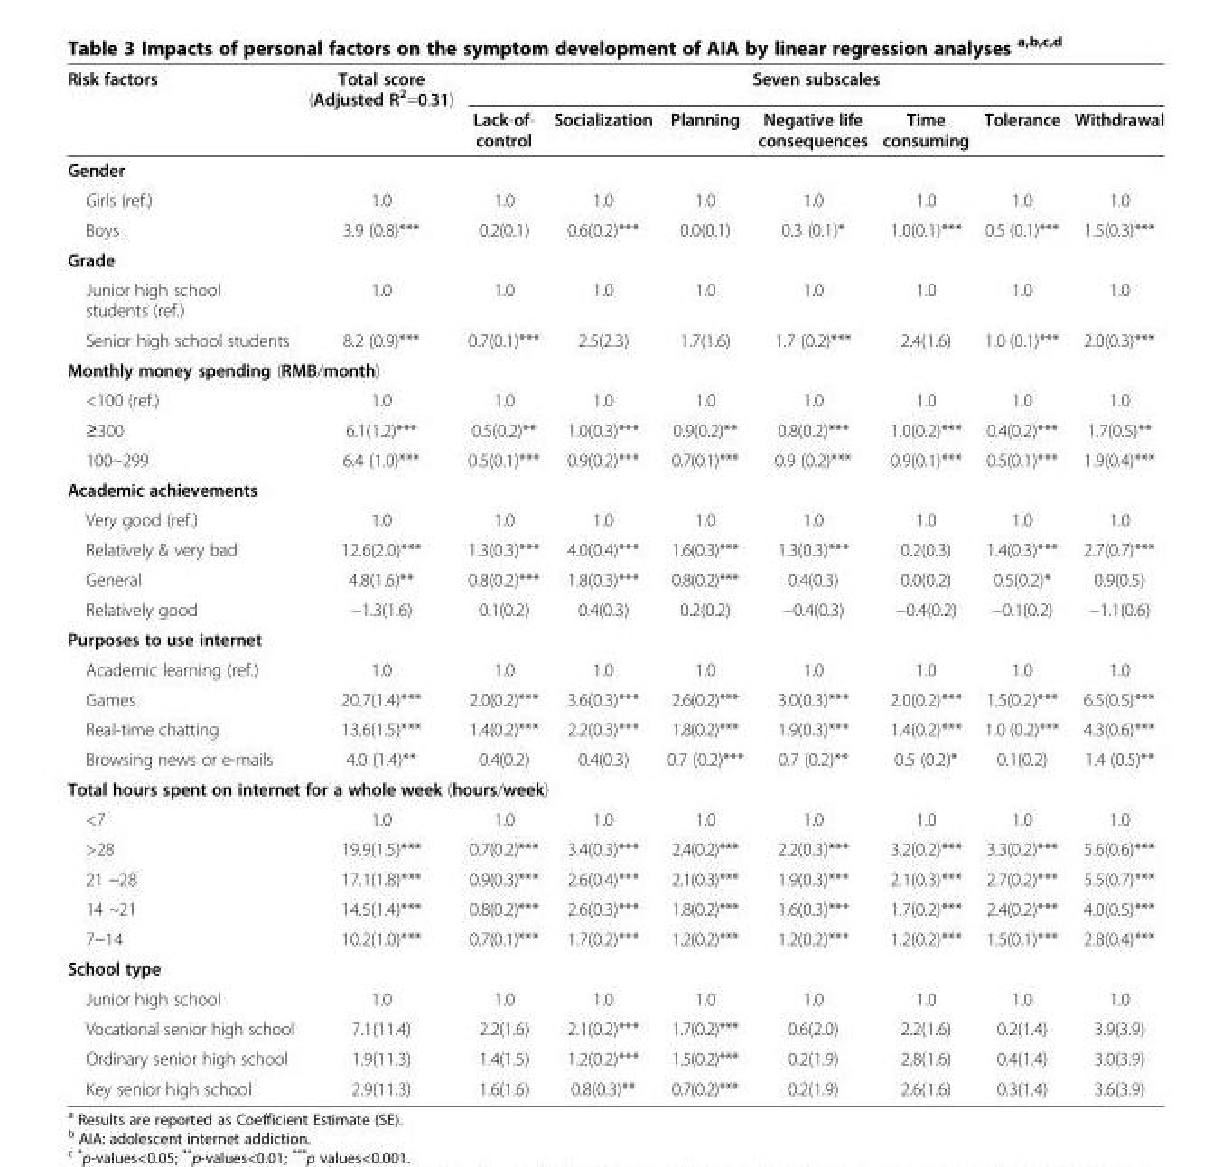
<table><thead><tr><td rowspan="2">Risk factors</td><td rowspan="2">Total score (Adjusted R<sup>2</sup>=0.31)</td><td colspan="7">Seven subscales</td></tr><tr><td>Lack-of- control</td><td>Socialization</td><td>Planning</td><td>Negative life consequences</td><td>Time consuming</td><td>Tolerance</td><td>Withdrawal</td></tr></thead><tbody><tr><td colspan="9">Gender</td></tr><tr><td>Girls (ref.)</td><td>1.0</td><td>1.0</td><td>1.0</td><td>1.0</td><td>1.0</td><td>1.0</td><td>1.0</td><td>1.0</td></tr><tr><td>Boys</td><td>3.9 (0.8)***</td><td>0.2(0.1)</td><td>0.6(0.2)***</td><td>0.0(0.1)</td><td>0.3 (0.1)*</td><td>1.0(0.1)***</td><td>0.5 (0.1)***</td><td>1.5(0.3)***</td></tr><tr><td colspan="9">Grade</td></tr><tr><td>Junior high school students (ref.)</td><td>1.0</td><td>1.0</td><td>1.0</td><td>1.0</td><td>1.0</td><td>1.0</td><td>1.0</td><td>1.0</td></tr><tr><td>Senior high school students</td><td>8.2 (0.9)***</td><td>0.7(0.1)***</td><td>2.5(2.3)</td><td>1.7(1.6)</td><td>1.7 (0.2)***</td><td>2.4(1.6)</td><td>1.0 (0.1)***</td><td>2.0(0.3)***</td></tr><tr><td colspan="9">Monthly money spending (RMB/month)</td></tr><tr><td>&lt;100 (ref.)</td><td>1.0</td><td>1.0</td><td>1.0</td><td>1.0</td><td>1.0</td><td>1.0</td><td>1.0</td><td>1.0</td></tr><tr><td>≥300</td><td>6.1(1.2)***</td><td>0.5(0.2)**</td><td>1.0(0.3)***</td><td>0.9(0.2)**</td><td>0.8(0.2)***</td><td>1.0(0.2)***</td><td>0.4(0.2)***</td><td>1.7(0.5)**</td></tr><tr><td>100~299</td><td>6.4 (1.0)***</td><td>0.5(0.1)***</td><td>0.9(0.2)***</td><td>0.7(0.1)***</td><td>0.9 (0.2)***</td><td>0.9(0.1)***</td><td>0.5(0.1)***</td><td>1.9(0.4)***</td></tr><tr><td colspan="9">Academic achievements</td></tr><tr><td>Very good (ref.)</td><td>1.0</td><td>1.0</td><td>1.0</td><td>1.0</td><td>1.0</td><td>1.0</td><td>1.0</td><td>1.0</td></tr><tr><td>Relatively &amp; very bad</td><td>12.6(2.0)***</td><td>1.3(0.3)***</td><td>4.0(0.4)***</td><td>1.6(0.3)***</td><td>1.3(0.3)***</td><td>0.2(0.3)</td><td>1.4(0.3)***</td><td>2.7(0.7)***</td></tr><tr><td>General</td><td>4.8(1.6)**</td><td>0.8(0.2)***</td><td>1.8(0.3)***</td><td>0.8(0.2)***</td><td>0.4(0.3)</td><td>0.0(0.2)</td><td>0.5(0.2)*</td><td>0.9(0.5)</td></tr><tr><td>Relatively good</td><td>−1.3(1.6)</td><td>0.1(0.2)</td><td>0.4(0.3)</td><td>0.2(0.2)</td><td>−0.4(0.3)</td><td>−0.4(0.2)</td><td>−0.1(0.2)</td><td>−1.1(0.6)</td></tr><tr><td colspan="9">Purposes to use internet</td></tr><tr><td>Academic learning (ref.)</td><td>1.0</td><td>1.0</td><td>1.0</td><td>1.0</td><td>1.0</td><td>1.0</td><td>1.0</td><td>1.0</td></tr><tr><td>Games</td><td>20.7(1.4)***</td><td>2.0(0.2)***</td><td>3.6(0.3)***</td><td>2.6(0.2)***</td><td>3.0(0.3)***</td><td>2.0(0.2)***</td><td>1.5(0.2)***</td><td>6.5(0.5)***</td></tr><tr><td>Real-time chatting</td><td>13.6(1.5)***</td><td>1.4(0.2)***</td><td>2.2(0.3)***</td><td>1.8(0.2)***</td><td>1.9(0.3)***</td><td>1.4(0.2)***</td><td>1.0 (0.2)***</td><td>4.3(0.6)***</td></tr><tr><td>Browsing news or e-mails</td><td>4.0 (1.4)**</td><td>0.4(0.2)</td><td>0.4(0.3)</td><td>0.7 (0.2)***</td><td>0.7 (0.2)**</td><td>0.5 (0.2)*</td><td>0.1(0.2)</td><td>1.4 (0.5)**</td></tr><tr><td colspan="9">Total hours spent on internet for a whole week (hours/week)</td></tr><tr><td>&lt;7</td><td>1.0</td><td>1.0</td><td>1.0</td><td>1.0</td><td>1.0</td><td>1.0</td><td>1.0</td><td>1.0</td></tr><tr><td>&gt;28</td><td>19.9(1.5)***</td><td>0.7(0.2)***</td><td>3.4(0.3)***</td><td>2.4(0.2)***</td><td>2.2(0.3)***</td><td>3.2(0.2)***</td><td>3.3(0.2)***</td><td>5.6(0.6)***</td></tr><tr><td>21 ~28</td><td>17.1(1.8)***</td><td>0.9(0.3)***</td><td>2.6(0.4)***</td><td>2.1(0.3)***</td><td>1.9(0.3)***</td><td>2.1(0.3)***</td><td>2.7(0.2)***</td><td>5.5(0.7)***</td></tr><tr><td>14 ~21</td><td>14.5(1.4)***</td><td>0.8(0.2)***</td><td>2.6(0.3)***</td><td>1.8(0.2)***</td><td>1.6(0.3)***</td><td>1.7(0.2)***</td><td>2.4(0.2)***</td><td>4.0(0.5)***</td></tr><tr><td>7~14</td><td>10.2(1.0)***</td><td>0.7(0.1)***</td><td>1.7(0.2)***</td><td>1.2(0.2)***</td><td>1.2(0.2)***</td><td>1.2(0.2)***</td><td>1.5(0.1)***</td><td>2.8(0.4)***</td></tr><tr><td colspan="9">School type</td></tr><tr><td>Junior high school</td><td>1.0</td><td>1.0</td><td>1.0</td><td>1.0</td><td>1.0</td><td>1.0</td><td>1.0</td><td>1.0</td></tr><tr><td>Vocational senior high school</td><td>7.1(11.4)</td><td>2.2(1.6)</td><td>2.1(0.2)***</td><td>1.7(0.2)***</td><td>0.6(2.0)</td><td>2.2(1.6)</td><td>0.2(1.4)</td><td>3.9(3.9)</td></tr><tr><td>Ordinary senior high school</td><td>1.9(11.3)</td><td>1.4(1.5)</td><td>1.2(0.2)***</td><td>1.5(0.2)***</td><td>0.2(1.9)</td><td>2.8(1.6)</td><td>0.4(1.4)</td><td>3.0(3.9)</td></tr><tr><td>Key senior high school</td><td>2.9(11.3)</td><td>1.6(1.6)</td><td>0.8(0.3)**</td><td>0.7(0.2)***</td><td>0.2(1.9)</td><td>2.6(1.6)</td><td>0.3(1.4)</td><td>3.6(3.9)</td></tr></tbody></table>